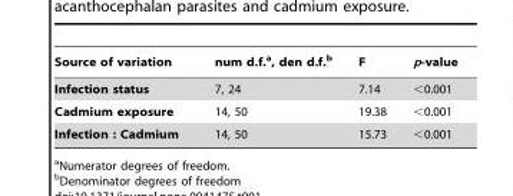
<table><thead><tr><td>Source of variation</td><td>num d.f.<sup>a</sup>, den d.f.<sup>b</sup></td><td>F</td><td>p-value</td></tr></thead><tbody><tr><td>Infection status</td><td>7, 24</td><td>7.14</td><td>&lt;0.001</td></tr><tr><td>Cadmium exposure</td><td>14, 50</td><td>19.38</td><td>&lt;0.001</td></tr><tr><td>Infection : Cadmium</td><td>14, 50</td><td>15.73</td><td>&lt;0.001</td></tr></tbody></table>